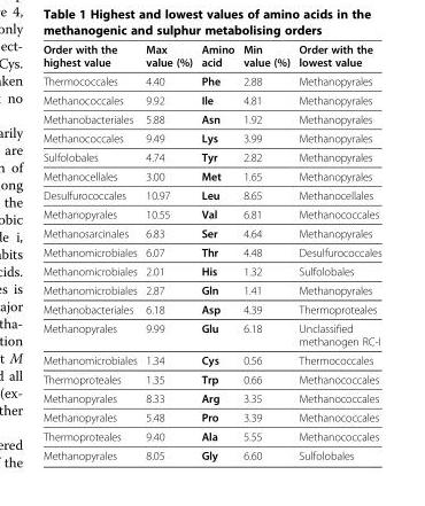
<table><thead><tr><td>Order with the highest value</td><td>Max value (%)</td><td>Amino acid</td><td>Min value (%)</td><td>Order with the lowest value</td></tr></thead><tbody><tr><td>Thermococcales</td><td>4.40</td><td>Phe</td><td>2.88</td><td>Methanopyrales</td></tr><tr><td>Methanococcales</td><td>9.92</td><td>Ile</td><td>4.81</td><td>Methanopyrales</td></tr><tr><td>Methanobacteriales</td><td>5.88</td><td>Asn</td><td>1.92</td><td>Methanopyrales</td></tr><tr><td>Methanococcales</td><td>9.49</td><td>Lys</td><td>3.99</td><td>Methanopyrales</td></tr><tr><td>Sulfolobales</td><td>4.74</td><td>Tyr</td><td>2.82</td><td>Methanopyrales</td></tr><tr><td>Methanocellales</td><td>3.00</td><td>Met</td><td>1.65</td><td>Methanopyrales</td></tr><tr><td>Desulfurococcales</td><td>10.97</td><td>Leu</td><td>8.65</td><td>Methanocellales</td></tr><tr><td>Methanopyrales</td><td>10.55</td><td>Val</td><td>6.81</td><td>Methanococcales</td></tr><tr><td>Methanosarcinales</td><td>6.83</td><td>Ser</td><td>4.64</td><td>Methanopyrales</td></tr><tr><td>Methanomicrobiales</td><td>6.07</td><td>Thr</td><td>4.48</td><td>Desulfurococcales</td></tr><tr><td>Methanomicrobiales</td><td>2.01</td><td>His</td><td>1.32</td><td>Sulfolobales</td></tr><tr><td>Methanomicrobiales</td><td>2.87</td><td>Gln</td><td>1.41</td><td>Methanopyrales</td></tr><tr><td>Methanobacteriales</td><td>6.18</td><td>Asp</td><td>4.39</td><td>Thermoproteales</td></tr><tr><td>Methanopyrales</td><td>9.99</td><td>Glu</td><td>6.18</td><td>Unclassified methanogen RC-I</td></tr><tr><td>Methanomicrobiales</td><td>1.34</td><td>Cys</td><td>0.56</td><td>Thermococcales</td></tr><tr><td>Thermoproteales</td><td>1.35</td><td>Trp</td><td>0.66</td><td>Methanococcales</td></tr><tr><td>Methanopyrales</td><td>8.33</td><td>Arg</td><td>3.35</td><td>Methanococcales</td></tr><tr><td>Methanopyrales</td><td>5.48</td><td>Pro</td><td>3.39</td><td>Methanococcales</td></tr><tr><td>Thermoproteales</td><td>9.40</td><td>Ala</td><td>5.55</td><td>Methanococcales</td></tr><tr><td>Methanopyrales</td><td>8.05</td><td>Gly</td><td>6.60</td><td>Sulfolobales</td></tr></tbody></table>